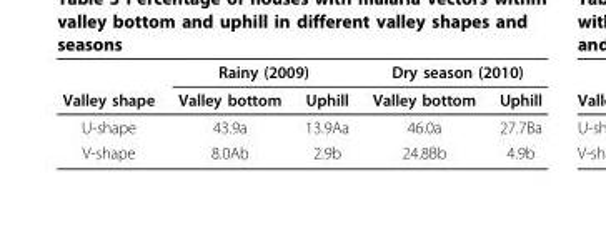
<table><thead><tr><td rowspan="2">Valley shape</td><td colspan="2">Rainy (2009)</td><td colspan="2">Dry season (2010)</td></tr><tr><td>Valley bottom</td><td>Uphill</td><td>Valley bottom</td><td>Uphill</td></tr></thead><tbody><tr><td>U-shape</td><td>43.9a</td><td>13.9Aa</td><td>46.0a</td><td>27.7Ba</td></tr><tr><td>V-shape</td><td>8.0Ab</td><td>2.9b</td><td>24.8Bb</td><td>4.9b</td></tr></tbody></table>